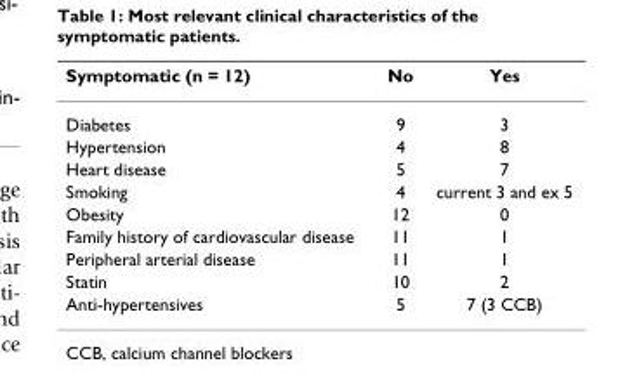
<table><thead><tr><td>Symptomatic (n = 12)</td><td>No</td><td>Yes</td></tr></thead><tbody><tr><td>Diabetes</td><td>9</td><td>3</td></tr><tr><td>Hypertension</td><td>4</td><td>8</td></tr><tr><td>Heart disease</td><td>5</td><td>7</td></tr><tr><td>Smoking</td><td>4</td><td>current 3 and ex 5</td></tr><tr><td>Obesity</td><td>12</td><td>0</td></tr><tr><td>Family history of cardiovascular disease</td><td>11</td><td>1</td></tr><tr><td>Peripheral arterial disease</td><td>11</td><td>1</td></tr><tr><td>Statin</td><td>10</td><td>2</td></tr><tr><td>Anti-hypertensives</td><td>5</td><td>7 (3 CCB)</td></tr></tbody></table>